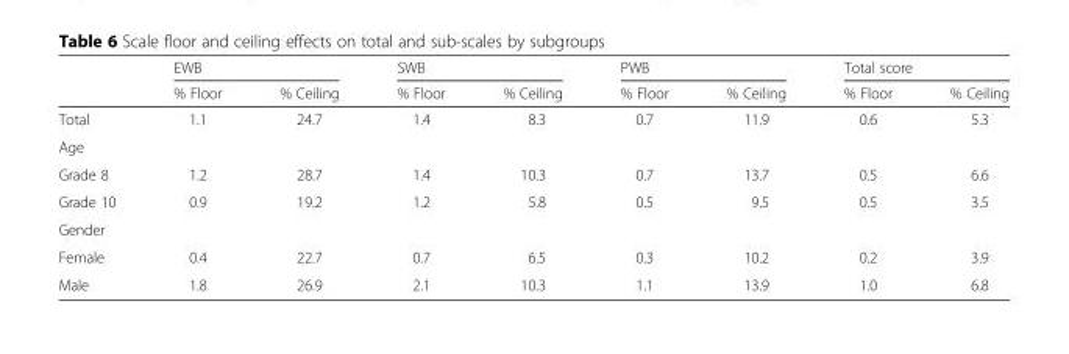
<table><thead><tr><td rowspan="2"></td><td colspan="2">EWB</td><td colspan="2">SWB</td><td colspan="2">PWB</td><td colspan="2">Total score</td></tr><tr><td>% Floor</td><td>% Ceiling</td><td>% Floor</td><td>% Ceiling</td><td>% Floor</td><td>% Ceiling</td><td>% Floor</td><td>% Ceiling</td></tr></thead><tbody><tr><td>Total</td><td>1.1</td><td>24.7</td><td>1.4</td><td>8.3</td><td>0.7</td><td>11.9</td><td>0.6</td><td>5.3</td></tr><tr><td colspan="9">Age</td></tr><tr><td>Grade 8</td><td>1.2</td><td>28.7</td><td>1.4</td><td>10.3</td><td>0.7</td><td>13.7</td><td>0.5</td><td>6.6</td></tr><tr><td>Grade 10</td><td>0.9</td><td>19.2</td><td>1.2</td><td>5.8</td><td>0.5</td><td>9.5</td><td>0.5</td><td>3.5</td></tr><tr><td colspan="9">Gender</td></tr><tr><td>Female</td><td>0.4</td><td>22.7</td><td>0.7</td><td>6.5</td><td>0.3</td><td>10.2</td><td>0.2</td><td>3.9</td></tr><tr><td>Male</td><td>1.8</td><td>26.9</td><td>2.1</td><td>10.3</td><td>1.1</td><td>13.9</td><td>1.0</td><td>6.8</td></tr></tbody></table>